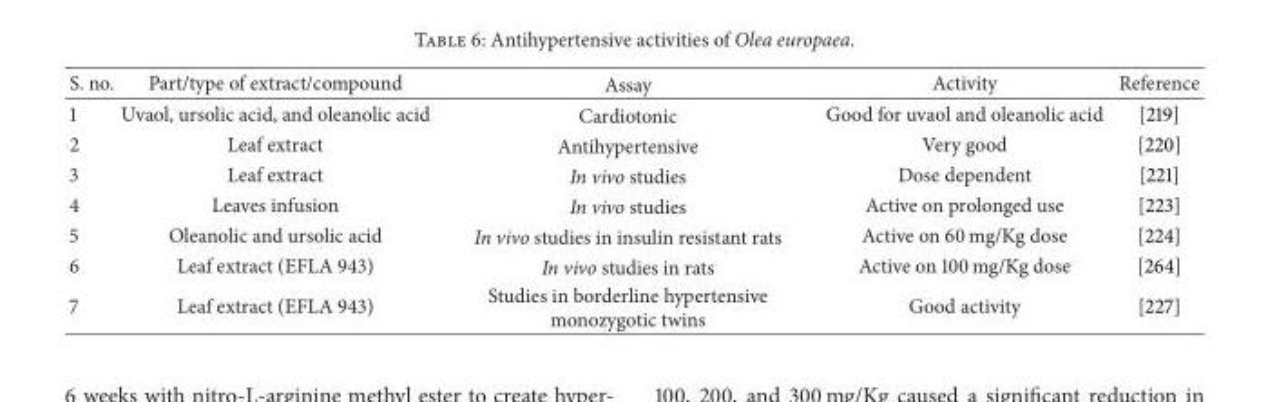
<table><thead><tr><td>S. no.</td><td>Part/type of extract/compound</td><td>Assay</td><td>Activity</td><td>Reference</td></tr></thead><tbody><tr><td>1</td><td>Uvaol, ursolic acid, and oleanolic acid</td><td>Cardiotonic</td><td>Good for uvaol and oleanolic acid</td><td>[219]</td></tr><tr><td>2</td><td>Leaf extract</td><td>Antihypertensive</td><td>Very good</td><td>[220]</td></tr><tr><td>3</td><td>Leaf extract</td><td>In vivo studies</td><td>Dose dependent</td><td>[221]</td></tr><tr><td>4</td><td>Leaves infusion</td><td>In vivo studies</td><td>Active on prolonged use</td><td>[223]</td></tr><tr><td>5</td><td>Oleanolic and ursolic acid</td><td>In vivo studies in insulin resistant rats</td><td>Active on 60 mg/Kg dose</td><td>[224]</td></tr><tr><td>6</td><td>Leaf extract (EFLA 943)</td><td>In vivo studies in rats</td><td>Active on 100 mg/Kg dose</td><td>[264]</td></tr><tr><td>7</td><td>Leaf extract (EFLA 943)</td><td>Studies in borderline hypertensive monozygotic twins</td><td>Good activity</td><td>[227]</td></tr></tbody></table>